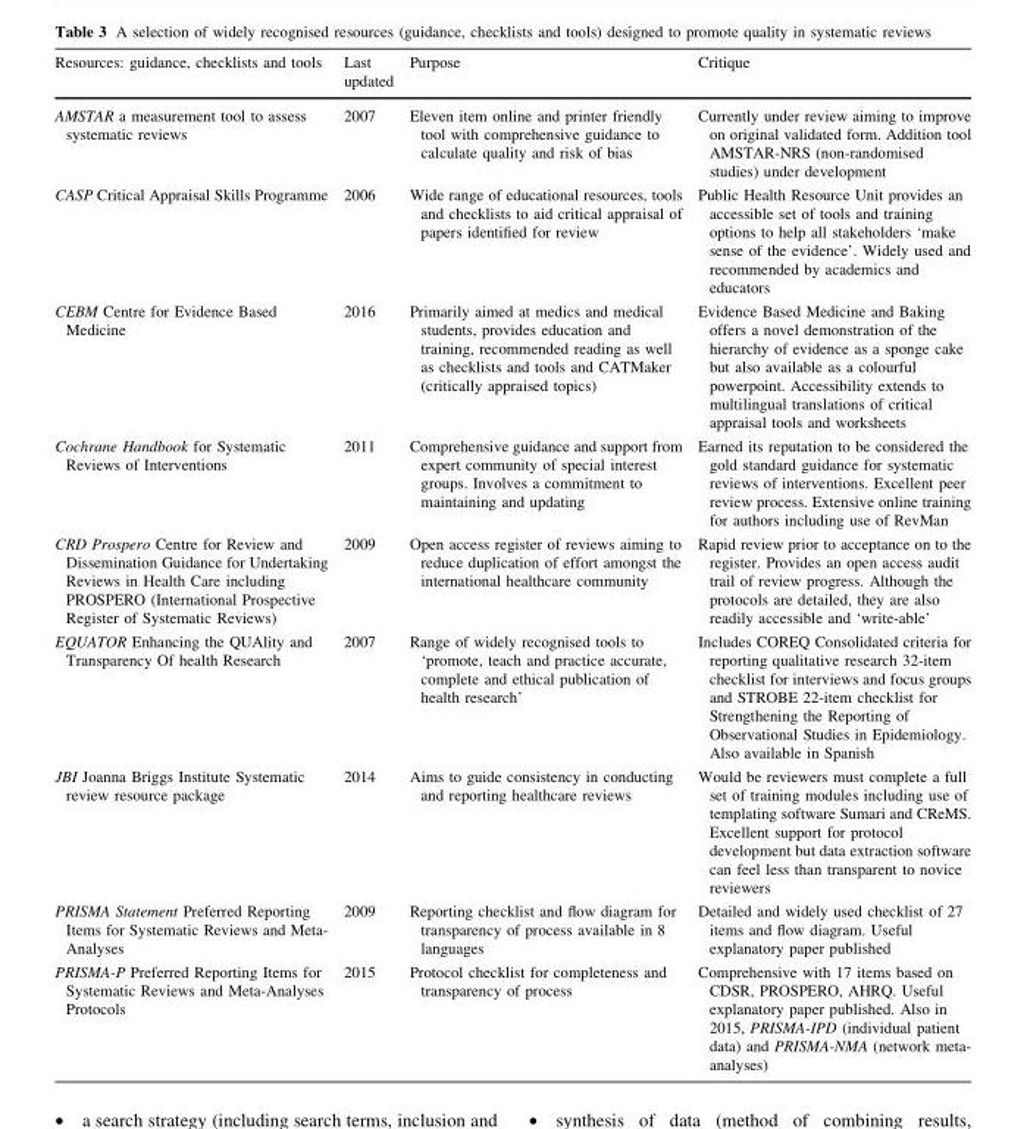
<table><thead><tr><td>Resources: guidance, checklists and tools</td><td>Last updated</td><td>Purpose</td><td>Critique</td></tr></thead><tbody><tr><td>AMSTAR a measurement tool to assess systematic reviews</td><td>2007</td><td>Eleven item online and printer friendly tool with comprehensive guidance to calculate quality and risk of bias</td><td>Currently under review aiming to improve on original validated form. Addition tool AMSTAR-NRS (non-randomised studies) under development</td></tr><tr><td>CASP Critical Appraisal Skills Programme</td><td>2006</td><td>Wide range of educational resources, tools and checklists to aid critical appraisal of papers identified for review</td><td>Public Health Resource Unit provides an accessible set of tools and training options to help all stakeholders ‘make sense of the evidence’. Widely used and recommended by academics and educators</td></tr><tr><td>CEBM Centre for Evidence Based Medicine</td><td>2016</td><td>Primarily aimed at medics and medical students, provides education and training, recommended reading as well as checklists and tools and CATMaker (critically appraised topics)</td><td>Evidence Based Medicine and Baking offers a novel demonstration of the hierarchy of evidence as a sponge cake but also available as a colourful powerpoint. Accessibility extends to multilingual translations of critical appraisal tools and worksheets</td></tr><tr><td>Cochrane Handbook for Systematic Reviews of Interventions</td><td>2011</td><td>Comprehensive guidance and support from expert community of special interest groups. Involves a commitment to maintaining and updating</td><td>Earned its reputation to be considered the gold standard guidance for systematic reviews of interventions. Excellent peer review process. Extensive online training for authors including use of RevMan</td></tr><tr><td>CRD Prospero Centre for Review and Dissemination Guidance for Undertaking Reviews in Health Care including PROSPERO (International Prospective Register of Systematic Reviews)</td><td>2009</td><td>Open access register of reviews aiming to reduce duplication of effort amongst the international healthcare community</td><td>Rapid review prior to acceptance on to the register. Provides an open access audit trail of review progress. Although the protocols are detailed, they are also readily accessible and ‘write-able’</td></tr><tr><td>EQUATOR Enhancing the QUAlity and Transparency Of health Research</td><td>2007</td><td>Range of widely recognised tools to ‘promote, teach and practice accurate, complete and ethical publication of health research’</td><td>Includes COREQ Consolidated criteria for reporting qualitative research 32-item checklist for interviews and focus groups and STROBE 22-item checklist for Strengthening the Reporting of Observational Studies in Epidemiology. Also available in Spanish</td></tr><tr><td>JBI Joanna Briggs Institute Systematic review resource package</td><td>2014</td><td>Aims to guide consistency in conducting and reporting healthcare reviews</td><td>Would be reviewers must complete a full set of training modules including use of templating software Sumari and CReMS. Excellent support for protocol development but data extraction software can feel less than transparent to novice reviewers</td></tr><tr><td>PRISMA Statement Preferred Reporting Items for Systematic Reviews and Meta- Analyses</td><td>2009</td><td>Reporting checklist and flow diagram for transparency of process available in 8 languages</td><td>Detailed and widely used checklist of 27 items and flow diagram. Useful explanatory paper published</td></tr><tr><td>PRISMA-P Preferred Reporting Items for Systematic Reviews and Meta-Analyses Protocols</td><td>2015</td><td>Protocol checklist for completeness and transparency of process</td><td>Comprehensive with 17 items based on CDSR, PROSPERO, AHRQ. Useful explanatory paper published. Also in 2015, PRISMA-IPD (individual patient data) and PRISMA-NMA (network meta- analyses)</td></tr></tbody></table>